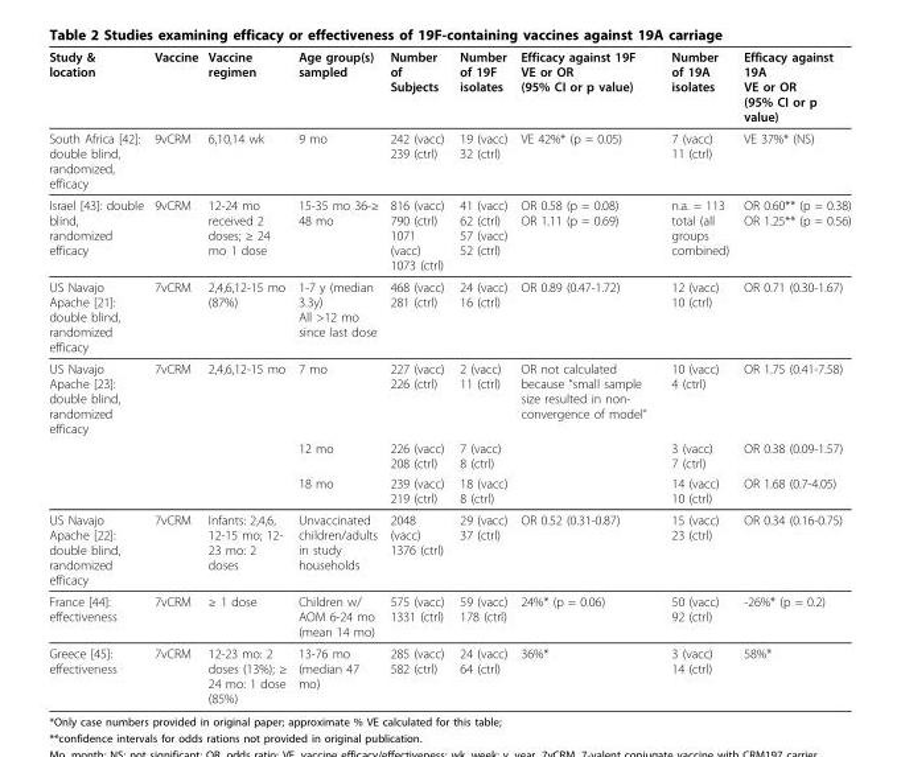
<table><thead><tr><td>Study &amp; location</td><td>Vaccine</td><td>Vaccine regimen</td><td>Age group(s) sampled</td><td>Number of Subjects</td><td>Number of 19F isolates</td><td>Efficacy against 19F VE or OR (95% CI or p value)</td><td>Number of 19A isolates</td><td>Efficacy against 19A VE or OR (95% CI or p value)</td></tr></thead><tbody><tr><td>South Africa [42]: double blind, randomized, efficacy</td><td>9vCRM</td><td>6,10,14 wk</td><td>9 mo</td><td>242 (vacc) 239 (ctrl)</td><td>19 (vacc) 32 (ctrl)</td><td>VE 42%* (p = 0.05)</td><td>7 (vacc) 11 (ctrl)</td><td>VE 37%* (NS)</td></tr><tr><td>Israel [43]: double blind, randomized efficacy</td><td>9vCRM</td><td>12-24 mo received 2 doses; ≥ 24 mo 1 dose</td><td>15-35 mo 36-≥ 48 mo</td><td>816 (vacc) 790 (ctrl) 1071 (vacc) 1073 (ctrl)</td><td>41 (vacc) 62 (ctrl) 57 (vacc) 52 (ctrl)</td><td>OR 0.58 (p = 0.08) OR 1.11 (p = 0.69)</td><td>n.a. = 113 total (all groups combined)</td><td>OR 0.60** (p = 0.38) OR 1.25** (p = 0.56)</td></tr><tr><td>US Navajo Apache [21]: double blind, randomized efficacy</td><td>7vCRM</td><td>2,4,6,12-15 mo (87%)</td><td>1-7 y (median 3.3y) All &gt;12 mo since last dose</td><td>468 (vacc) 281 (ctrl)</td><td>24 (vacc) 16 (ctrl)</td><td>OR 0.89 (0.47-1.72)</td><td>12 (vacc) 10 (ctrl)</td><td>OR 0.71 (0.30-1.67)</td></tr><tr><td rowspan="3">US Navajo Apache [23]: double blind, randomized efficacy</td><td>7vCRM</td><td>2,4,6,12-15 mo</td><td>7 mo</td><td>227 (vacc) 226 (ctrl)</td><td>2 (vacc) 11 (ctrl)</td><td>OR not calculated because “small sample size resulted in non- convergence of model”</td><td>10 (vacc) 4 (ctrl)</td><td>OR 1.75 (0.41-7.58)</td></tr><tr><td></td><td></td><td>12 mo</td><td>226 (vacc) 208 (ctrl)</td><td>7 (vacc) 8 (ctrl)</td><td></td><td>3 (vacc) 7 (ctrl)</td><td>OR 0.38 (0.09-1.57)</td></tr><tr><td></td><td></td><td>18 mo</td><td>239 (vacc) 219 (ctrl)</td><td>18 (vacc) 8 (ctrl)</td><td></td><td>14 (vacc) 10 (ctrl)</td><td>OR 1.68 (0.7-4.05)</td></tr><tr><td>US Navajo Apache [22]: double blind, randomized efficacy</td><td>7vCRM</td><td>Infants: 2,4,6, 12-15 mo; 12- 23 mo: 2 doses</td><td>Unvaccinated children/adults in study households</td><td>2048 (vacc) 1376 (ctrl)</td><td>29 (vacc) 37 (ctrl)</td><td>OR 0.52 (0.31-0.87)</td><td>15 (vacc) 23 (ctrl)</td><td>OR 0.34 (0.16-0.75)</td></tr><tr><td>France [44]: effectiveness</td><td>7vCRM</td><td>≥ 1 dose</td><td>Children w/ AOM 6-24 mo (mean 14 mo)</td><td>575 (vacc) 1331 (ctrl)</td><td>59 (vacc) 178 (ctrl)</td><td>24%* (p = 0.06)</td><td>50 (vacc) 92 (ctrl)</td><td>-26%* (p = 0.2)</td></tr><tr><td>Greece [45]: effectiveness</td><td>7vCRM</td><td>12-23 mo: 2 doses (13%); ≥ 24 mo: 1 dose (85%)</td><td>13-76 mo (median 47 mo)</td><td>285 (vacc) 582 (ctrl)</td><td>24 (vacc) 64 (ctrl)</td><td>36%*</td><td>3 (vacc) 14 (ctrl)</td><td>58%*</td></tr></tbody></table>